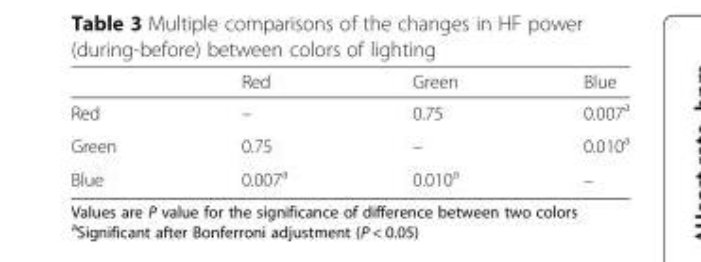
<table><thead><tr><td></td><td>Red</td><td>Green</td><td>Blue</td></tr></thead><tbody><tr><td>Red</td><td>–</td><td>0.75</td><td>0.007<sup>a</sup></td></tr><tr><td>Green</td><td>0.75</td><td>–</td><td>0.010<sup>a</sup></td></tr><tr><td>Blue</td><td>0.007<sup>a</sup></td><td>0.010<sup>a</sup></td><td>–</td></tr></tbody></table>